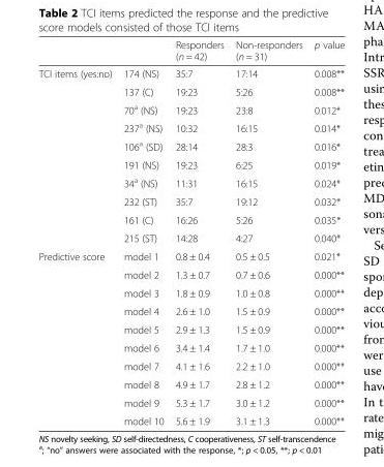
<table><thead><tr><td></td><td></td><td>Responders (n = 42)</td><td>Non-responders (n = 31)</td><td>p value</td></tr></thead><tbody><tr><td rowspan="10">TCI items (yes:no)</td><td>174 (NS)</td><td>35:7</td><td>17:14</td><td>0.008**</td></tr><tr><td>137 (C)</td><td>19:23</td><td>5:26</td><td>0.008**</td></tr><tr><td>70<sup>a</sup> (NS)</td><td>19:23</td><td>23:8</td><td>0.012*</td></tr><tr><td>237<sup>a</sup> (NS)</td><td>10:32</td><td>16:15</td><td>0.014*</td></tr><tr><td>106<sup>a</sup> (SD)</td><td>28:14</td><td>28:3</td><td>0.016*</td></tr><tr><td>191 (NS)</td><td>19:23</td><td>6:25</td><td>0.019*</td></tr><tr><td>34<sup>a</sup> (NS)</td><td>11:31</td><td>16:15</td><td>0.024*</td></tr><tr><td>232 (ST)</td><td>35:7</td><td>19:12</td><td>0.032*</td></tr><tr><td>161 (C)</td><td>16:26</td><td>5:26</td><td>0.035*</td></tr><tr><td>215 (ST)</td><td>14:28</td><td>4:27</td><td>0.040*</td></tr><tr><td rowspan="10">Predictive score</td><td>model 1</td><td>0.8 ± 0.4</td><td>0.5 ± 0.5</td><td>0.021*</td></tr><tr><td>model 2</td><td>1.3 ± 0.7</td><td>0.7 ± 0.6</td><td>0.000**</td></tr><tr><td>model 3</td><td>1.8 ± 0.9</td><td>1.0 ± 0.8</td><td>0.000**</td></tr><tr><td>model 4</td><td>2.6 ± 1.0</td><td>1.5 ± 0.9</td><td>0.000**</td></tr><tr><td>model 5</td><td>2.9 ± 1.3</td><td>1.5 ± 0.9</td><td>0.000**</td></tr><tr><td>model 6</td><td>3.4 ± 1.4</td><td>1.7 ± 1.0</td><td>0.000**</td></tr><tr><td>model 7</td><td>4.1 ± 1.6</td><td>2.2 ± 1.0</td><td>0.000**</td></tr><tr><td>model 8</td><td>4.9 ± 1.7</td><td>2.8 ± 1.2</td><td>0.000**</td></tr><tr><td>model 9</td><td>5.3 ± 1.7</td><td>3.0 ± 1.2</td><td>0.000**</td></tr><tr><td>model 10</td><td>5.6 ± 1.9</td><td>3.1 ± 1.3</td><td>0.000**</td></tr></tbody></table>